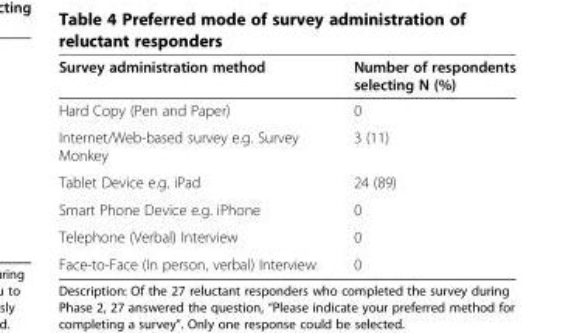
<table><thead><tr><td>Survey administration method</td><td>Number of respondents selecting N (%)</td></tr></thead><tbody><tr><td>Hard Copy (Pen and Paper)</td><td>0</td></tr><tr><td>Internet/Web-based survey e.g. Survey Monkey</td><td>3 (11)</td></tr><tr><td>Tablet Device e.g. iPad</td><td>24 (89)</td></tr><tr><td>Smart Phone Device e.g. iPhone</td><td>0</td></tr><tr><td>Telephone (Verbal) Interview</td><td>0</td></tr><tr><td>Face-to-Face (In person, verbal) Interview</td><td>0</td></tr></tbody></table>